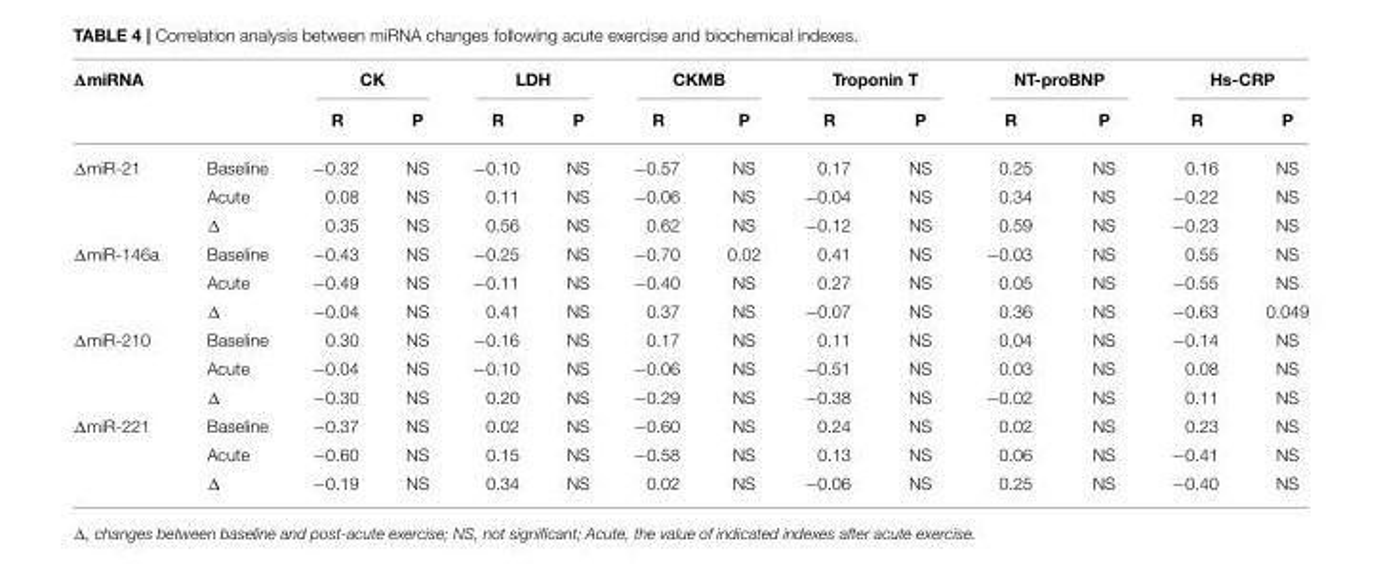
<table><thead><tr><td rowspan="2">ΔmiRNA</td><td rowspan="2"></td><td colspan="2">CK</td><td colspan="2">LDH</td><td colspan="2">CKMB</td><td colspan="2">Troponin T</td><td colspan="2">NT-proBNP</td><td colspan="2">Hs-CRP</td></tr><tr><td>R</td><td>P</td><td>R</td><td>P</td><td>R</td><td>P</td><td>R</td><td>P</td><td>R</td><td>P</td><td>R</td><td>P</td></tr></thead><tbody><tr><td rowspan="3">ΔmiR-21</td><td>Baseline</td><td>−0.32</td><td>NS</td><td>−0.10</td><td>NS</td><td>−0.57</td><td>NS</td><td>0.17</td><td>NS</td><td>0.25</td><td>NS</td><td>0.16</td><td>NS</td></tr><tr><td>Acute</td><td>0.08</td><td>NS</td><td>0.11</td><td>NS</td><td>−0.06</td><td>NS</td><td>−0.04</td><td>NS</td><td>0.34</td><td>NS</td><td>−0.22</td><td>NS</td></tr><tr><td>Δ</td><td>0.35</td><td>NS</td><td>0.56</td><td>NS</td><td>0.62</td><td>NS</td><td>−0.12</td><td>NS</td><td>0.59</td><td>NS</td><td>−0.23</td><td>NS</td></tr><tr><td rowspan="3">ΔmiR-146a</td><td>Baseline</td><td>−0.43</td><td>NS</td><td>−0.25</td><td>NS</td><td>−0.70</td><td>0.02</td><td>0.41</td><td>NS</td><td>−0.03</td><td>NS</td><td>0.55</td><td>NS</td></tr><tr><td>Acute</td><td>−0.49</td><td>NS</td><td>−0.11</td><td>NS</td><td>−0.40</td><td>NS</td><td>0.27</td><td>NS</td><td>0.05</td><td>NS</td><td>−0.55</td><td>NS</td></tr><tr><td>Δ</td><td>−0.04</td><td>NS</td><td>0.41</td><td>NS</td><td>0.37</td><td>NS</td><td>−0.07</td><td>NS</td><td>0.36</td><td>NS</td><td>−0.63</td><td>0.049</td></tr><tr><td rowspan="3">ΔmiR-210</td><td>Baseline</td><td>0.30</td><td>NS</td><td>−0.16</td><td>NS</td><td>0.17</td><td>NS</td><td>0.11</td><td>NS</td><td>0.04</td><td>NS</td><td>−0.14</td><td>NS</td></tr><tr><td>Acute</td><td>−0.04</td><td>NS</td><td>−0.10</td><td>NS</td><td>−0.06</td><td>NS</td><td>−0.51</td><td>NS</td><td>0.03</td><td>NS</td><td>0.08</td><td>NS</td></tr><tr><td>Δ</td><td>−0.30</td><td>NS</td><td>0.20</td><td>NS</td><td>−0.29</td><td>NS</td><td>−0.38</td><td>NS</td><td>−0.02</td><td>NS</td><td>0.11</td><td>NS</td></tr><tr><td rowspan="3">ΔmiR-221</td><td>Baseline</td><td>−0.37</td><td>NS</td><td>0.02</td><td>NS</td><td>−0.60</td><td>NS</td><td>0.24</td><td>NS</td><td>0.02</td><td>NS</td><td>0.23</td><td>NS</td></tr><tr><td>Acute</td><td>−0.60</td><td>NS</td><td>0.15</td><td>NS</td><td>−0.58</td><td>NS</td><td>0.13</td><td>NS</td><td>0.06</td><td>NS</td><td>−0.41</td><td>NS</td></tr><tr><td>Δ</td><td>−0.19</td><td>NS</td><td>0.34</td><td>NS</td><td>0.02</td><td>NS</td><td>−0.06</td><td>NS</td><td>0.25</td><td>NS</td><td>−0.40</td><td>NS</td></tr></tbody></table>